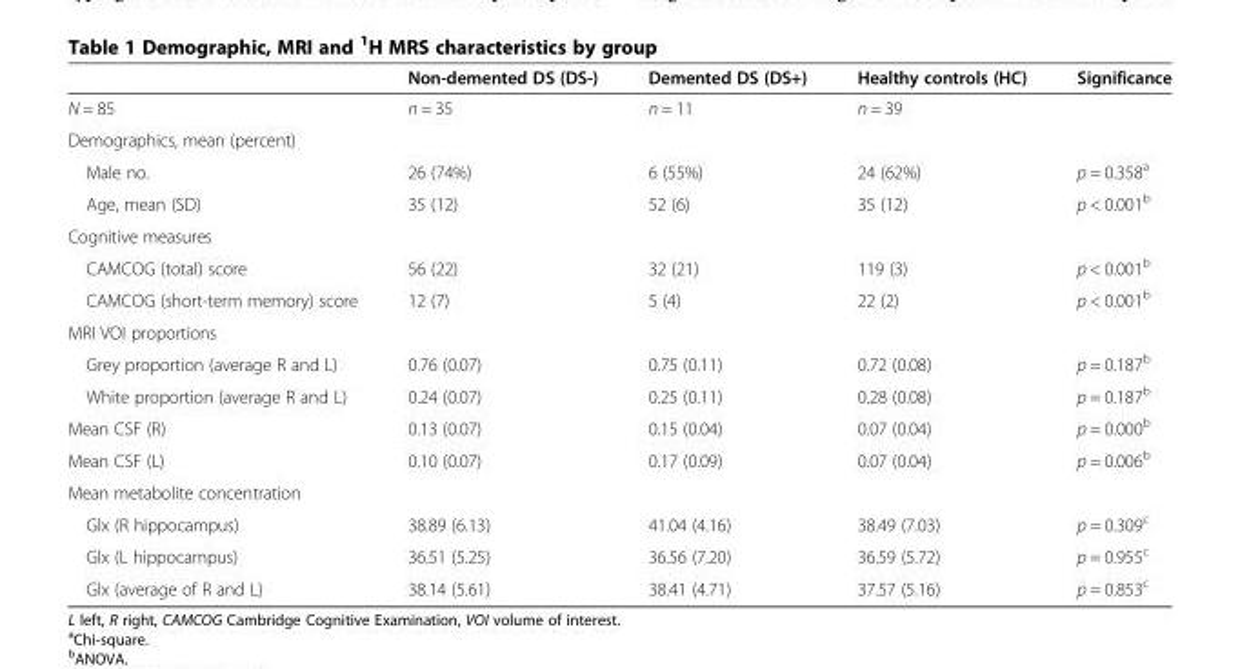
<table><thead><tr><td></td><td>Non-demented DS (DS-)</td><td>Demented DS (DS+)</td><td>Healthy controls (HC)</td><td>Significance</td></tr></thead><tbody><tr><td>N = 85</td><td>n = 35</td><td>n = 11</td><td>n = 39</td><td></td></tr><tr><td colspan="5">Demographics, mean (percent)</td></tr><tr><td>Male no.</td><td>26 (74%)</td><td>6 (55%)</td><td>24 (62%)</td><td>p = 0.358<sup>a</sup></td></tr><tr><td>Age, mean (SD)</td><td>35 (12)</td><td>52 (6)</td><td>35 (12)</td><td>p &lt; 0.001<sup>b</sup></td></tr><tr><td colspan="5">Cognitive measures</td></tr><tr><td>CAMCOG (total) score</td><td>56 (22)</td><td>32 (21)</td><td>119 (3)</td><td>p &lt; 0.001<sup>b</sup></td></tr><tr><td>CAMCOG (short-term memory) score</td><td>12 (7)</td><td>5 (4)</td><td>22 (2)</td><td>p &lt; 0.001<sup>b</sup></td></tr><tr><td colspan="5">MRI VOI proportions</td></tr><tr><td>Grey proportion (average R and L)</td><td>0.76 (0.07)</td><td>0.75 (0.11)</td><td>0.72 (0.08)</td><td>p = 0.187<sup>b</sup></td></tr><tr><td>White proportion (average R and L)</td><td>0.24 (0.07)</td><td>0.25 (0.11)</td><td>0.28 (0.08)</td><td>p = 0.187<sup>b</sup></td></tr><tr><td>Mean CSF (R)</td><td>0.13 (0.07)</td><td>0.15 (0.04)</td><td>0.07 (0.04)</td><td>p = 0.000<sup>b</sup></td></tr><tr><td>Mean CSF (L)</td><td>0.10 (0.07)</td><td>0.17 (0.09)</td><td>0.07 (0.04)</td><td>p = 0.006<sup>b</sup></td></tr><tr><td colspan="5">Mean metabolite concentration</td></tr><tr><td>Glx (R hippocampus)</td><td>38.89 (6.13)</td><td>41.04 (4.16)</td><td>38.49 (7.03)</td><td>p = 0.309<sup>c</sup></td></tr><tr><td>Glx (L hippocampus)</td><td>36.51 (5.25)</td><td>36.56 (7.20)</td><td>36.59 (5.72)</td><td>p = 0.955<sup>c</sup></td></tr><tr><td>Glx (average of R and L)</td><td>38.14 (5.61)</td><td>38.41 (4.71)</td><td>37.57 (5.16)</td><td>p = 0.853<sup>c</sup></td></tr></tbody></table>